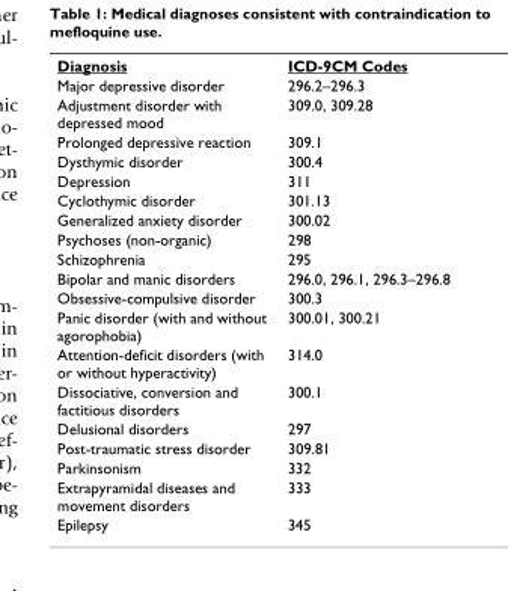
<table><tbody><tr><td>Diagnosis</td><td>ICD-9CM Codes</td></tr><tr><td>Major depressive disorder</td><td>296.2–296.3</td></tr><tr><td>Adjustment disorder with depressed mood</td><td>309.0, 309.28</td></tr><tr><td>Prolonged depressive reaction</td><td>309.1</td></tr><tr><td>Dysthymic disorder</td><td>300.4</td></tr><tr><td>Depression</td><td>311</td></tr><tr><td>Cyclothymic disorder</td><td>301.13</td></tr><tr><td>Generalized anxiety disorder</td><td>300.02</td></tr><tr><td>Psychoses (non-organic)</td><td>298</td></tr><tr><td>Schizophrenia</td><td>295</td></tr><tr><td>Bipolar and manic disorders</td><td>296.0, 296.1, 296.3–296.8</td></tr><tr><td>Obsessive-compulsive disorder</td><td>300.3</td></tr><tr><td>Panic disorder (with and without agorophobia)</td><td>300.01, 300.21</td></tr><tr><td>Attention-deficit disorders (with or without hyperactivity)</td><td>314.0</td></tr><tr><td>Dissociative, conversion and factitious disorders</td><td>300.1</td></tr><tr><td>Delusional disorders</td><td>297</td></tr><tr><td>Post-traumatic stress disorder</td><td>309.81</td></tr><tr><td>Parkinsonism</td><td>332</td></tr><tr><td>Extrapyramidal diseases and movement disorders</td><td>333</td></tr><tr><td>Epilepsy</td><td>345</td></tr></tbody></table>